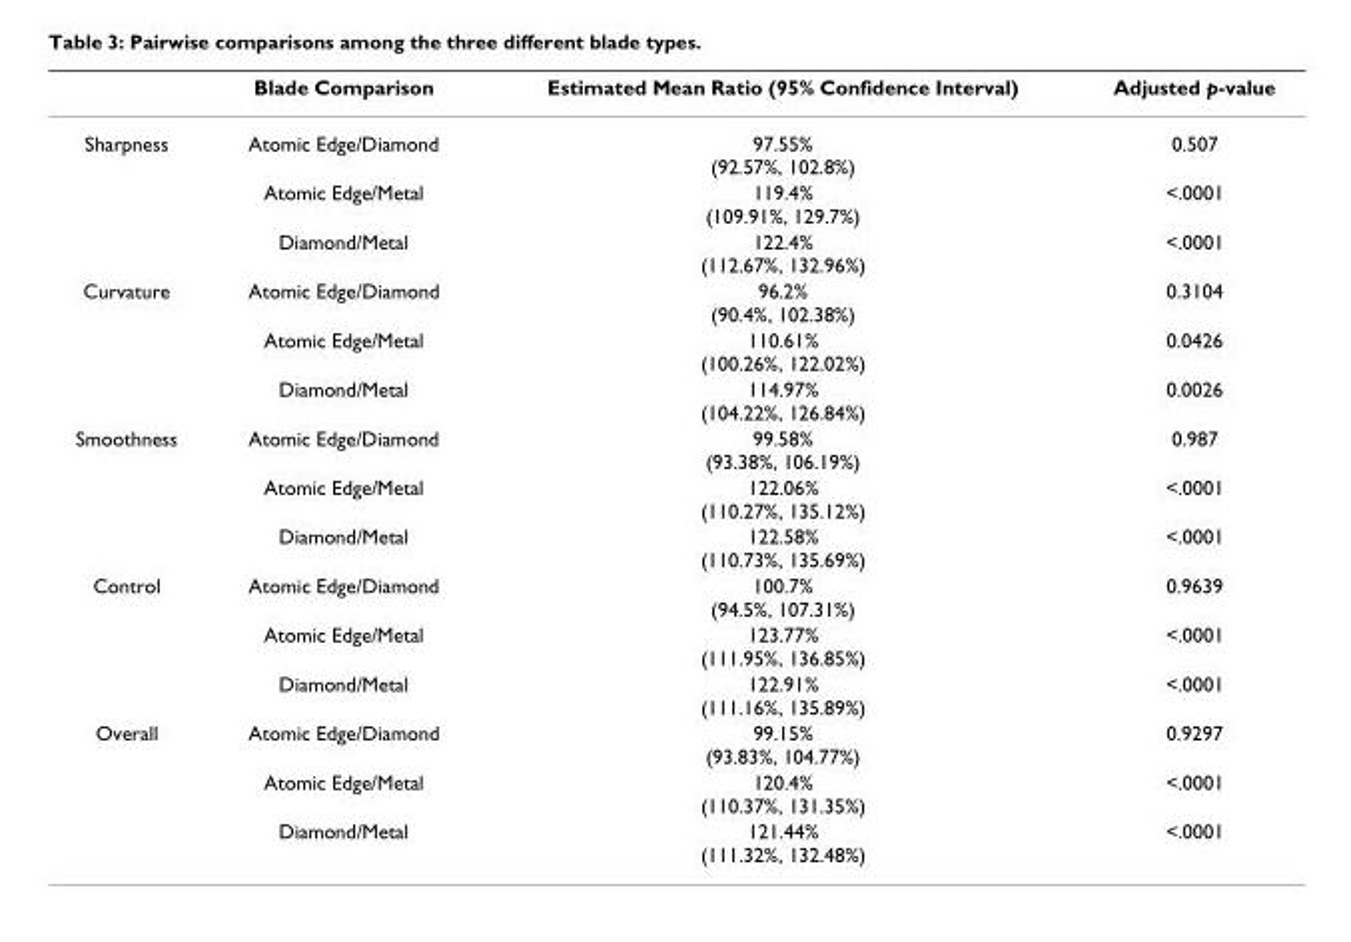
<table><thead><tr><td></td><td>Blade Comparison</td><td>Estimated Mean Ratio (95% Confidence Interval)</td><td>Adjusted p-value</td></tr></thead><tbody><tr><td rowspan="3">Sharpness</td><td>Atomic Edge/Diamond</td><td>97.55% (92.57%, 102.8%)</td><td>0.507</td></tr><tr><td>Atomic Edge/Metal</td><td>119.4% (109.91%, 129.7%)</td><td>&lt;.0001</td></tr><tr><td>Diamond/Metal</td><td>122.4% (112.67%, 132.96%)</td><td>&lt;.0001</td></tr><tr><td rowspan="3">Curvature</td><td>Atomic Edge/Diamond</td><td>96.2% (90.4%, 102.38%)</td><td>0.3104</td></tr><tr><td>Atomic Edge/Metal</td><td>110.61% (100.26%, 122.02%)</td><td>0.0426</td></tr><tr><td>Diamond/Metal</td><td>114.97% (104.22%, 126.84%)</td><td>0.0026</td></tr><tr><td rowspan="3">Smoothness</td><td>Atomic Edge/Diamond</td><td>99.58% (93.38%, 106.19%)</td><td>0.987</td></tr><tr><td>Atomic Edge/Metal</td><td>122.06% (110.27%, 135.12%)</td><td>&lt;.0001</td></tr><tr><td>Diamond/Metal</td><td>122.58% (110.73%, 135.69%)</td><td>&lt;.0001</td></tr><tr><td rowspan="3">Control</td><td>Atomic Edge/Diamond</td><td>100.7% (94.5%, 107.31%)</td><td>0.9639</td></tr><tr><td>Atomic Edge/Metal</td><td>123.77% (111.95%, 136.85%)</td><td>&lt;.0001</td></tr><tr><td>Diamond/Metal</td><td>122.91% (111.16%, 135.89%)</td><td>&lt;.0001</td></tr><tr><td rowspan="3">Overall</td><td>Atomic Edge/Diamond</td><td>99.15% (93.83%, 104.77%)</td><td>0.9297</td></tr><tr><td>Atomic Edge/Metal</td><td>120.4% (110.37%, 131.35%)</td><td>&lt;.0001</td></tr><tr><td>Diamond/Metal</td><td>121.44% (111.32%, 132.48%)</td><td>&lt;.0001</td></tr></tbody></table>